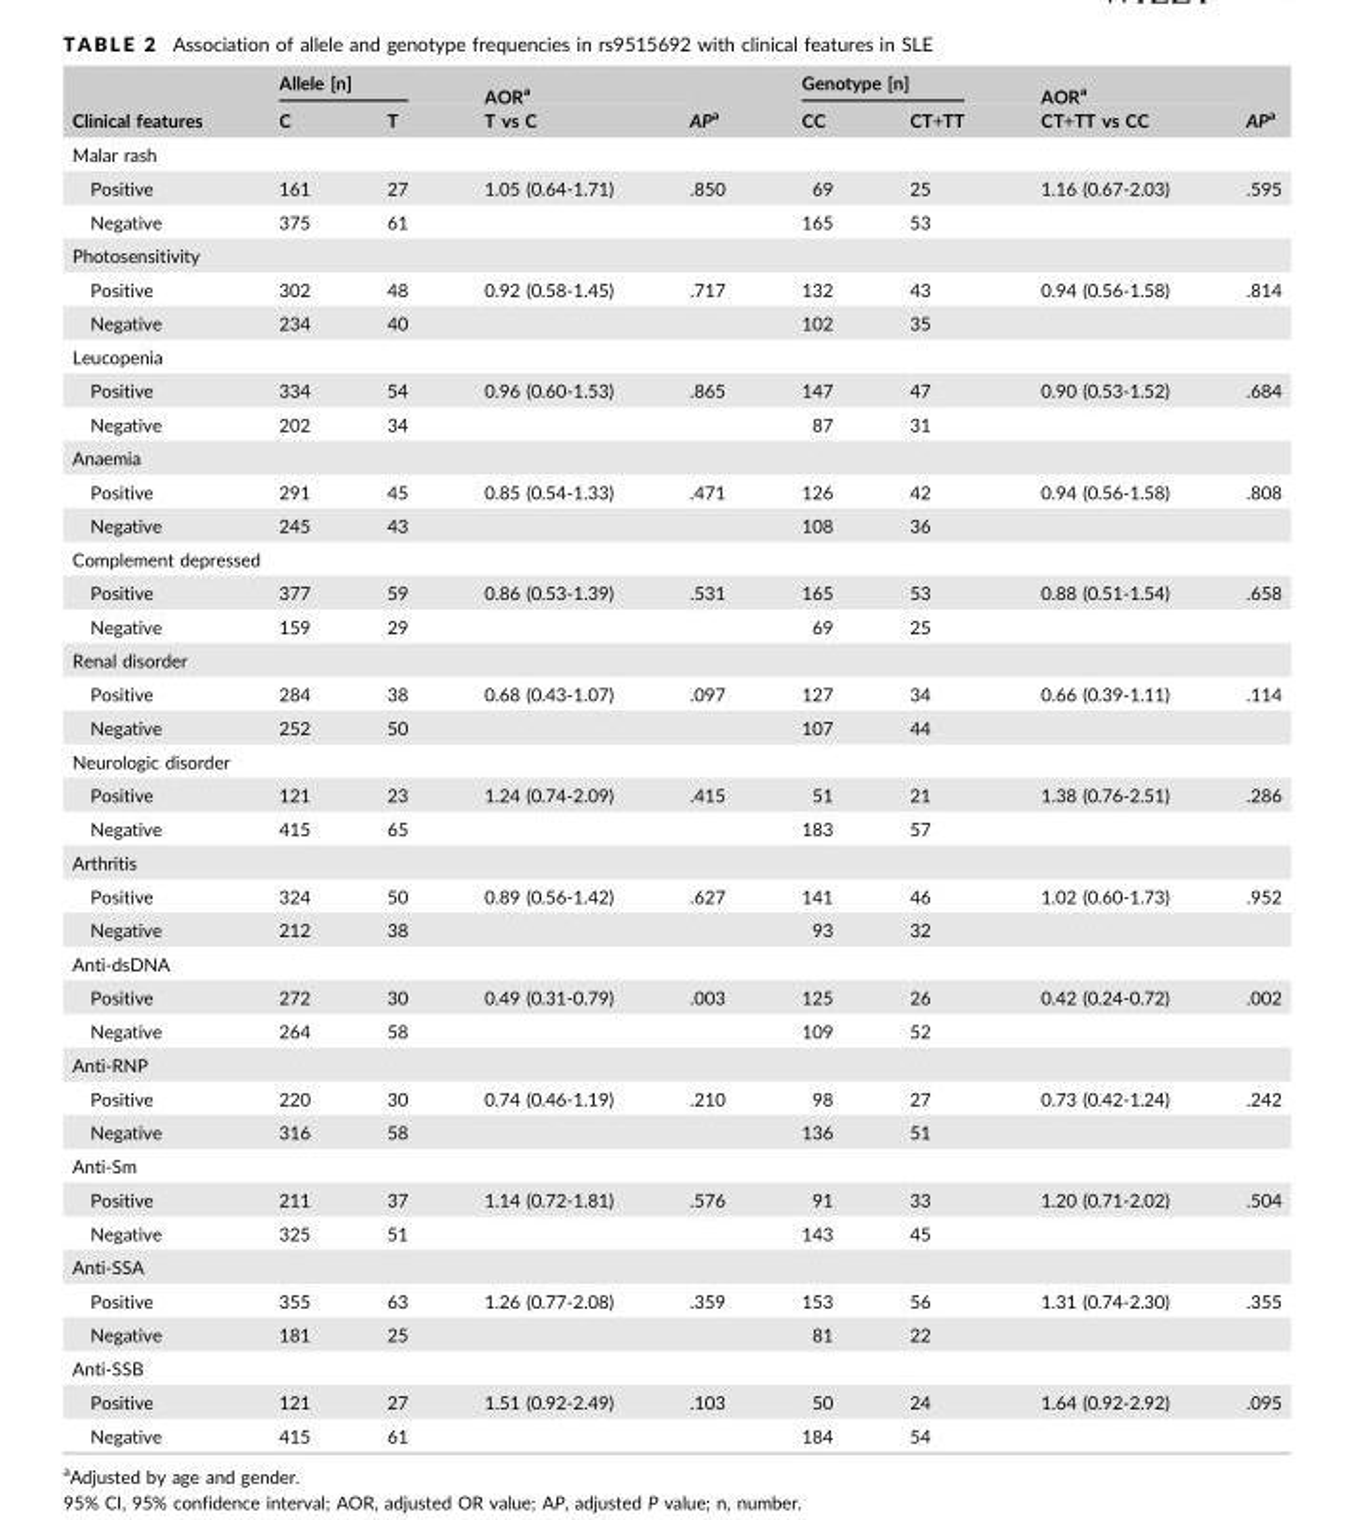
<table><thead><tr><td rowspan="2">Clinical features</td><td colspan="2">Allele [n]</td><td rowspan="2">AOR<sup>a</sup> T vs C</td><td rowspan="2">APa</td><td colspan="2">Genotype [n]</td><td rowspan="2">AOR<sup>a</sup> CT+TT vs CC</td><td rowspan="2">APa</td></tr><tr><td>C</td><td>T</td><td>CC</td><td>CT+TT</td></tr></thead><tbody><tr><td colspan="9">Malar rash</td></tr><tr><td>Positive</td><td>161</td><td>27</td><td>1.05 (0.64-1.71)</td><td>.850</td><td>69</td><td>25</td><td>1.16 (0.67-2.03)</td><td>.595</td></tr><tr><td>Negative</td><td>375</td><td>61</td><td></td><td></td><td>165</td><td>53</td><td></td><td></td></tr><tr><td colspan="9">Photosensitivity</td></tr><tr><td>Positive</td><td>302</td><td>48</td><td>0.92 (0.58-1.45)</td><td>.717</td><td>132</td><td>43</td><td>0.94 (0.56-1.58)</td><td>.814</td></tr><tr><td>Negative</td><td>234</td><td>40</td><td></td><td></td><td>102</td><td>35</td><td></td><td></td></tr><tr><td colspan="9">Leucopenia</td></tr><tr><td>Positive</td><td>334</td><td>54</td><td>0.96 (0.60-1.53)</td><td>.865</td><td>147</td><td>47</td><td>0.90 (0.53-1.52)</td><td>.684</td></tr><tr><td>Negative</td><td>202</td><td>34</td><td></td><td></td><td>87</td><td>31</td><td></td><td></td></tr><tr><td colspan="9">Anaemia</td></tr><tr><td>Positive</td><td>291</td><td>45</td><td>0.85 (0.54-1.33)</td><td>.471</td><td>126</td><td>42</td><td>0.94 (0.56-1.58)</td><td>.808</td></tr><tr><td>Negative</td><td>245</td><td>43</td><td></td><td></td><td>108</td><td>36</td><td></td><td></td></tr><tr><td colspan="9">Complement depressed</td></tr><tr><td>Positive</td><td>377</td><td>59</td><td>0.86 (0.53-1.39)</td><td>.531</td><td>165</td><td>53</td><td>0.88 (0.51-1.54)</td><td>.658</td></tr><tr><td>Negative</td><td>159</td><td>29</td><td></td><td></td><td>69</td><td>25</td><td></td><td></td></tr><tr><td colspan="9">Renal disorder</td></tr><tr><td>Positive</td><td>284</td><td>38</td><td>0.68 (0.43-1.07)</td><td>.097</td><td>127</td><td>34</td><td>0.66 (0.39-1.11)</td><td>.114</td></tr><tr><td>Negative</td><td>252</td><td>50</td><td></td><td></td><td>107</td><td>44</td><td></td><td></td></tr><tr><td colspan="9">Neurologic disorder</td></tr><tr><td>Positive</td><td>121</td><td>23</td><td>1.24 (0.74-2.09)</td><td>.415</td><td>51</td><td>21</td><td>1.38 (0.76-2.51)</td><td>.286</td></tr><tr><td>Negative</td><td>415</td><td>65</td><td></td><td></td><td>183</td><td>57</td><td></td><td></td></tr><tr><td colspan="9">Arthritis</td></tr><tr><td>Positive</td><td>324</td><td>50</td><td>0.89 (0.56-1.42)</td><td>.627</td><td>141</td><td>46</td><td>1.02 (0.60-1.73)</td><td>.952</td></tr><tr><td>Negative</td><td>212</td><td>38</td><td></td><td></td><td>93</td><td>32</td><td></td><td></td></tr><tr><td colspan="9">Anti-dsDNA</td></tr><tr><td>Positive</td><td>272</td><td>30</td><td>0.49 (0.31-0.79)</td><td>.003</td><td>125</td><td>26</td><td>0.42 (0.24-0.72)</td><td>.002</td></tr><tr><td>Negative</td><td>264</td><td>58</td><td></td><td></td><td>109</td><td>52</td><td></td><td></td></tr><tr><td colspan="9">Anti-RNP</td></tr><tr><td>Positive</td><td>220</td><td>30</td><td>0.74 (0.46-1.19)</td><td>.210</td><td>98</td><td>27</td><td>0.73 (0.42-1.24)</td><td>.242</td></tr><tr><td>Negative</td><td>316</td><td>58</td><td></td><td></td><td>136</td><td>51</td><td></td><td></td></tr><tr><td colspan="9">Anti-Sm</td></tr><tr><td>Positive</td><td>211</td><td>37</td><td>1.14 (0.72-1.81)</td><td>.576</td><td>91</td><td>33</td><td>1.20 (0.71-2.02)</td><td>.504</td></tr><tr><td>Negative</td><td>325</td><td>51</td><td></td><td></td><td>143</td><td>45</td><td></td><td></td></tr><tr><td colspan="9">Anti-SSA</td></tr><tr><td>Positive</td><td>355</td><td>63</td><td>1.26 (0.77-2.08)</td><td>.359</td><td>153</td><td>56</td><td>1.31 (0.74-2.30)</td><td>.355</td></tr><tr><td>Negative</td><td>181</td><td>25</td><td></td><td></td><td>81</td><td>22</td><td></td><td></td></tr><tr><td colspan="9">Anti-SSB</td></tr><tr><td>Positive</td><td>121</td><td>27</td><td>1.51 (0.92-2.49)</td><td>.103</td><td>50</td><td>24</td><td>1.64 (0.92-2.92)</td><td>.095</td></tr><tr><td>Negative</td><td>415</td><td>61</td><td></td><td></td><td>184</td><td>54</td><td></td><td></td></tr></tbody></table>